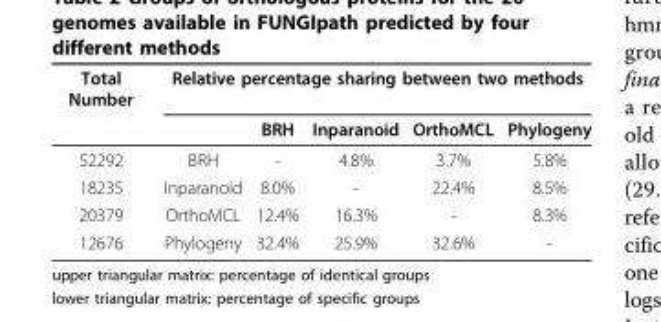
<table><thead><tr><td rowspan="2">Total Number</td><td colspan="5">Relative percentage sharing between two methods</td></tr><tr><td></td><td>BRH</td><td>Inparanoid</td><td>OrthoMCL</td><td>Phylogeny</td></tr></thead><tbody><tr><td>52292</td><td>BRH</td><td>-</td><td>4.8%</td><td>3.7%</td><td>5.8%</td></tr><tr><td>18235</td><td>Inparanoid</td><td>8.0%</td><td>-</td><td>22.4%</td><td>8.5%</td></tr><tr><td>20379</td><td>OrthoMCL</td><td>12.4%</td><td>16.3%</td><td>-</td><td>8.3%</td></tr><tr><td>12676</td><td>Phylogeny</td><td>32.4%</td><td>25.9%</td><td>32.6%</td><td>-</td></tr></tbody></table>